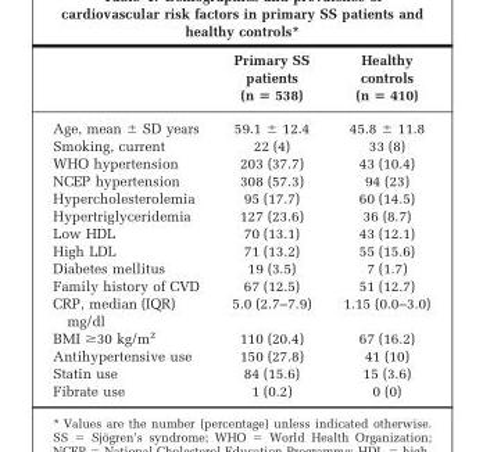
<table><thead><tr><td></td><td>Primary SS patients (n = 538)</td><td>Healthy controls (n = 410)</td></tr></thead><tbody><tr><td>Age, mean ± SD years</td><td>59.1 ± 12.4</td><td>45.8 ± 11.8</td></tr><tr><td>Smoking, current</td><td>22 (4)</td><td>33 (8)</td></tr><tr><td>WHO hypertension</td><td>203 (37.7)</td><td>43 (10.4)</td></tr><tr><td>NCEP hypertension</td><td>308 (57.3)</td><td>94 (23)</td></tr><tr><td>Hypercholesterolemia</td><td>95 (17.7)</td><td>60 (14.5)</td></tr><tr><td>Hypertriglyceridemia</td><td>127 (23.6)</td><td>36 (8.7)</td></tr><tr><td>Low HDL</td><td>70 (13.1)</td><td>43 (12.1)</td></tr><tr><td>High LDL</td><td>71 (13.2)</td><td>55 (15.6)</td></tr><tr><td>Diabetes mellitus</td><td>19 (3.5)</td><td>7 (1.7)</td></tr><tr><td>Family history of CVD</td><td>67 (12.5)</td><td>51 (12.7)</td></tr><tr><td>CRP, median (IQR) mg/dl</td><td>5.0 (2.7–7.9)</td><td>1.15 (0.0–3.0)</td></tr><tr><td>BMI ≥30 kg/m<sup>2</sup></td><td>110 (20.4)</td><td>67 (16.2)</td></tr><tr><td>Antihypertensive use</td><td>150 (27.8)</td><td>41 (10)</td></tr><tr><td>Statin use</td><td>84 (15.6)</td><td>15 (3.6)</td></tr><tr><td>Fibrate use</td><td>1 (0.2)</td><td>0 (0)</td></tr></tbody></table>